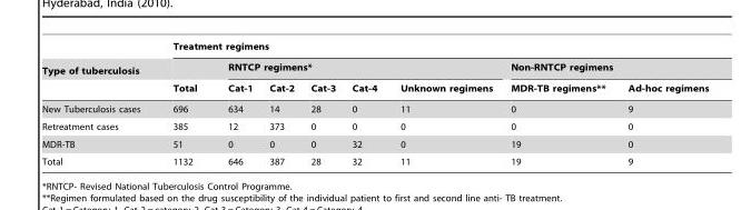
<table><thead><tr><td rowspan="3">Type of tuberculosis</td><td colspan="8">Treatment regimens</td></tr><tr><td rowspan="2">Total</td><td colspan="5">RNTCP regimens*</td><td colspan="2">Non-RNTCP regimens</td></tr><tr><td>Cat-1</td><td>Cat-2</td><td>Cat-3</td><td>Cat-4</td><td>Unknown regimens</td><td>MDR-TB regimens**</td><td>Ad-hoc regimens</td></tr></thead><tbody><tr><td>New Tuberculosis cases</td><td>696</td><td>634</td><td>14</td><td>28</td><td>0</td><td>11</td><td>0</td><td>9</td></tr><tr><td>Retreatment cases</td><td>385</td><td>12</td><td>373</td><td>0</td><td>0</td><td>0</td><td>0</td><td>0</td></tr><tr><td>MDR-TB</td><td>51</td><td>0</td><td>0</td><td>0</td><td>32</td><td>0</td><td>19</td><td>0</td></tr><tr><td>Total</td><td>1132</td><td>646</td><td>387</td><td>28</td><td>32</td><td>11</td><td>19</td><td>9</td></tr></tbody></table>